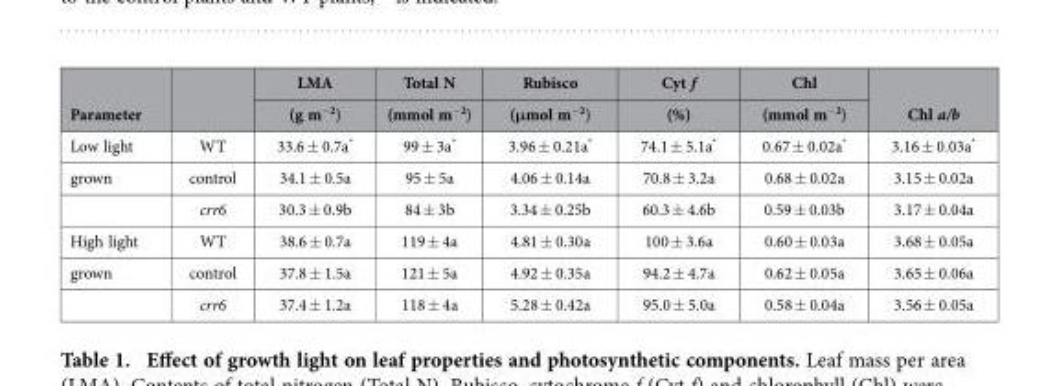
<table><thead><tr><td rowspan="2">Parameter</td><td rowspan="2"></td><td rowspan="2">LMA (g m<sup>−2</sup>)</td><td rowspan="2">Total N (mmol m<sup>−2</sup>)</td><td rowspan="2">Rubisco (μmol m<sup>−2</sup>)</td><td rowspan="2">Cyt f (%)</td><td rowspan="2">Chl (mmol m<sup>−2</sup>)</td><td rowspan="2">Chl a/b</td></tr><tr></tr></thead><tbody><tr><td>Low light</td><td>WT</td><td>33.6 ± 0.7a*</td><td>99 ± 3a*</td><td>3.96 ± 0.21a*</td><td>74.1 ± 5.1a*</td><td>0.67 ± 0.02a*</td><td>3.16 ± 0.03a*</td></tr><tr><td rowspan="2">grown</td><td>control</td><td>34.1 ± 0.5a</td><td>95 ± 5a</td><td>4.06 ± 0.14a</td><td>70.8 ± 3.2a</td><td>0.68 ± 0.02a</td><td>3.15 ± 0.02a</td></tr><tr><td>crr6</td><td>30.3 ± 0.9b</td><td>84 ± 3b</td><td>3.34 ± 0.25b</td><td>60.3 ± 4.6b</td><td>0.59 ± 0.03b</td><td>3.17 ± 0.04a</td></tr><tr><td>High light</td><td>WT</td><td>38.6 ± 0.7a</td><td>119 ± 4a</td><td>4.81 ± 0.30a</td><td>100 ± 3.6a</td><td>0.60 ± 0.03a</td><td>3.68 ± 0.05a</td></tr><tr><td rowspan="2">grown</td><td>control</td><td>37.8 ± 1.5a</td><td>121 ± 5a</td><td>4.92 ± 0.35a</td><td>94.2 ± 4.7a</td><td>0.62 ± 0.05a</td><td>3.65 ± 0.06a</td></tr><tr><td>crr6</td><td>37.4 ± 1.2a</td><td>118 ± 4a</td><td>5.28 ± 0.42a</td><td>95.0 ± 5.0a</td><td>0.58 ± 0.04a</td><td>3.56 ± 0.05a</td></tr></tbody></table>